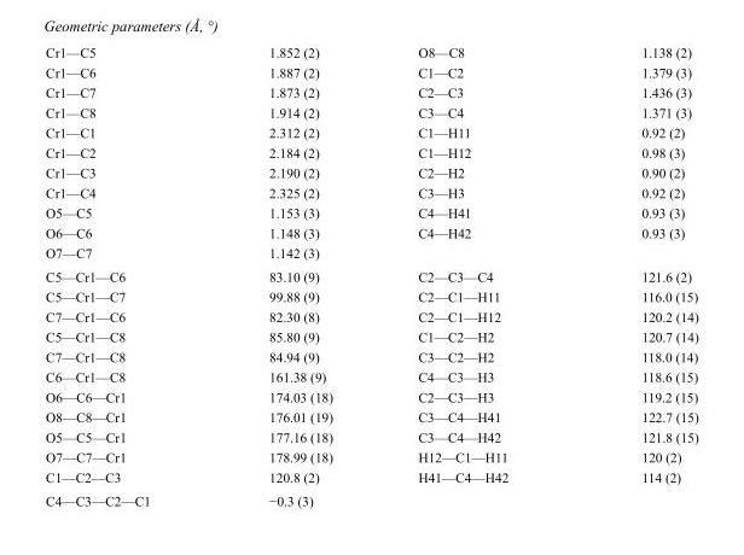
<table><tbody><tr><td>Cr1—C5</td><td>1.852 (2)</td><td>O8—C8</td><td>1.138 (2)</td></tr><tr><td>Cr1—C6</td><td>1.887 (2)</td><td>C1—C2</td><td>1.379 (3)</td></tr><tr><td>Cr1—C7</td><td>1.873 (2)</td><td>C2—C3</td><td>1.436 (3)</td></tr><tr><td>Cr1—C8</td><td>1.914 (2)</td><td>C3—C4</td><td>1.371 (3)</td></tr><tr><td>Cr1—C1</td><td>2.312 (2)</td><td>C1—H11</td><td>0.92 (2)</td></tr><tr><td>Cr1—C2</td><td>2.184 (2)</td><td>C1—H12</td><td>0.98 (3)</td></tr><tr><td>Cr1—C3</td><td>2.190 (2)</td><td>C2—H2</td><td>0.90 (2)</td></tr><tr><td>Cr1—C4</td><td>2.325 (2)</td><td>C3—H3</td><td>0.92 (2)</td></tr><tr><td>O5—C5</td><td>1.153 (3)</td><td>C4—H41</td><td>0.93 (3)</td></tr><tr><td>O6—C6</td><td>1.148 (3)</td><td>C4—H42</td><td>0.93 (3)</td></tr><tr><td>O7—C7</td><td>1.142 (3)</td><td></td><td></td></tr><tr><td>C5—Cr1—C6</td><td>83.10 (9)</td><td>C2—C3—C4</td><td>121.6 (2)</td></tr><tr><td>C5—Cr1—C7</td><td>99.88 (9)</td><td>C2—C1—H11</td><td>116.0 (15)</td></tr><tr><td>C7—Cr1—C6</td><td>82.30 (8)</td><td>C2—C1—H12</td><td>120.2 (14)</td></tr><tr><td>C5—Cr1—C8</td><td>85.80 (9)</td><td>C1—C2—H2</td><td>120.7 (14)</td></tr><tr><td>C7—Cr1—C8</td><td>84.94 (9)</td><td>C3—C2—H2</td><td>118.0 (14)</td></tr><tr><td>C6—Cr1—C8</td><td>161.38 (9)</td><td>C4—C3—H3</td><td>118.6 (15)</td></tr><tr><td>O6—C6—Cr1</td><td>174.03 (18)</td><td>C2—C3—H3</td><td>119.2 (15)</td></tr><tr><td>O8—C8—Cr1</td><td>176.01 (19)</td><td>C3—C4—H41</td><td>122.7 (15)</td></tr><tr><td>O5—C5—Cr1</td><td>177.16 (18)</td><td>C3—C4—H42</td><td>121.8 (15)</td></tr><tr><td>O7—C7—Cr1</td><td>178.99 (18)</td><td>H12—C1—H11</td><td>120 (2)</td></tr><tr><td>C1—C2—C3</td><td>120.8 (2)</td><td>H41—C4—H42</td><td>114 (2)</td></tr><tr><td>C4—C3—C2—C1</td><td>−0.3 (3)</td><td></td><td></td></tr></tbody></table>